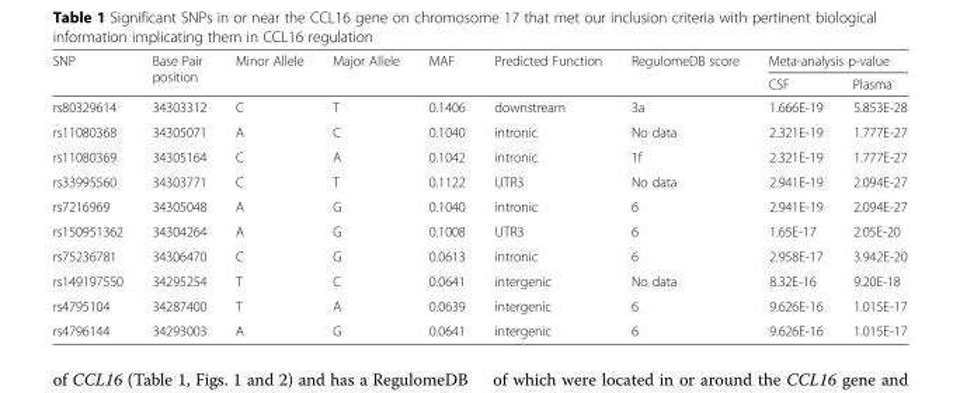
<table><thead><tr><td rowspan="2">SNP</td><td rowspan="2">Base Pair position</td><td rowspan="2">Minor Allele</td><td rowspan="2">Major Allele</td><td rowspan="2">MAF</td><td rowspan="2">Predicted Function</td><td rowspan="2">RegulomeDB score</td><td colspan="2">Meta-analysis p-value</td></tr><tr><td>CSF</td><td>Plasma</td></tr></thead><tbody><tr><td>rs80329614</td><td>34303312</td><td>C</td><td>T</td><td>0.1406</td><td>downstream</td><td>3a</td><td>1.666E-19</td><td>5.853E-28</td></tr><tr><td>rs11080368</td><td>34305071</td><td>A</td><td>C</td><td>0.1040</td><td>intronic</td><td>No data</td><td>2.321E-19</td><td>1.777E-27</td></tr><tr><td>rs11080369</td><td>34305164</td><td>C</td><td>A</td><td>0.1042</td><td>intronic</td><td>1f</td><td>2.321E-19</td><td>1.777E-27</td></tr><tr><td>rs33995560</td><td>34303771</td><td>C</td><td>T</td><td>0.1122</td><td>UTR3</td><td>No data</td><td>2.941E-19</td><td>2.094E-27</td></tr><tr><td>rs7216969</td><td>34305048</td><td>A</td><td>G</td><td>0.1040</td><td>intronic</td><td>6</td><td>2.941E-19</td><td>2.094E-27</td></tr><tr><td>rs150951362</td><td>34304264</td><td>A</td><td>G</td><td>0.1008</td><td>UTR3</td><td>6</td><td>1.65E-17</td><td>2.05E-20</td></tr><tr><td>rs75236781</td><td>34306470</td><td>C</td><td>G</td><td>0.0613</td><td>intronic</td><td>6</td><td>2.958E-17</td><td>3.942E-20</td></tr><tr><td>rs149197550</td><td>34295254</td><td>T</td><td>C</td><td>0.0641</td><td>intergenic</td><td>No data</td><td>8.32E-16</td><td>9.20E-18</td></tr><tr><td>rs4795104</td><td>34287400</td><td>T</td><td>A</td><td>0.0639</td><td>intergenic</td><td>6</td><td>9.626E-16</td><td>1.015E-17</td></tr><tr><td>rs4796144</td><td>34293003</td><td>A</td><td>G</td><td>0.0641</td><td>intergenic</td><td>6</td><td>9.626E-16</td><td>1.015E-17</td></tr></tbody></table>